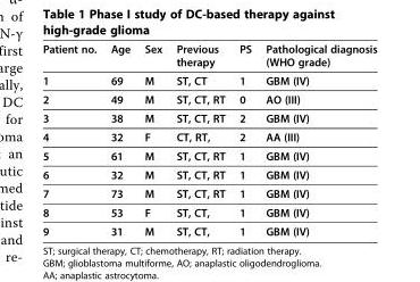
<table><thead><tr><td>Patient no.</td><td>Age</td><td>Sex</td><td>Previous therapy</td><td>PS</td><td>Pathological diagnosis (WHO grade)</td></tr></thead><tbody><tr><td>1</td><td>69</td><td>M</td><td>ST, CT</td><td>1</td><td>GBM (IV)</td></tr><tr><td>2</td><td>49</td><td>M</td><td>ST, CT, RT</td><td>0</td><td>AO (III)</td></tr><tr><td>3</td><td>38</td><td>M</td><td>ST, CT, RT</td><td>2</td><td>GBM (IV)</td></tr><tr><td>4</td><td>32</td><td>F</td><td>CT, RT,</td><td>2</td><td>AA (III)</td></tr><tr><td>5</td><td>61</td><td>M</td><td>ST, CT, RT</td><td>1</td><td>GBM (IV)</td></tr><tr><td>6</td><td>32</td><td>M</td><td>ST, CT, RT</td><td>1</td><td>GBM (IV)</td></tr><tr><td>7</td><td>73</td><td>M</td><td>ST, CT, RT</td><td>1</td><td>GBM (IV)</td></tr><tr><td>8</td><td>53</td><td>F</td><td>ST, CT,</td><td>1</td><td>GBM (IV)</td></tr><tr><td>9</td><td>31</td><td>M</td><td>ST, CT,</td><td>1</td><td>GBM (IV)</td></tr></tbody></table>